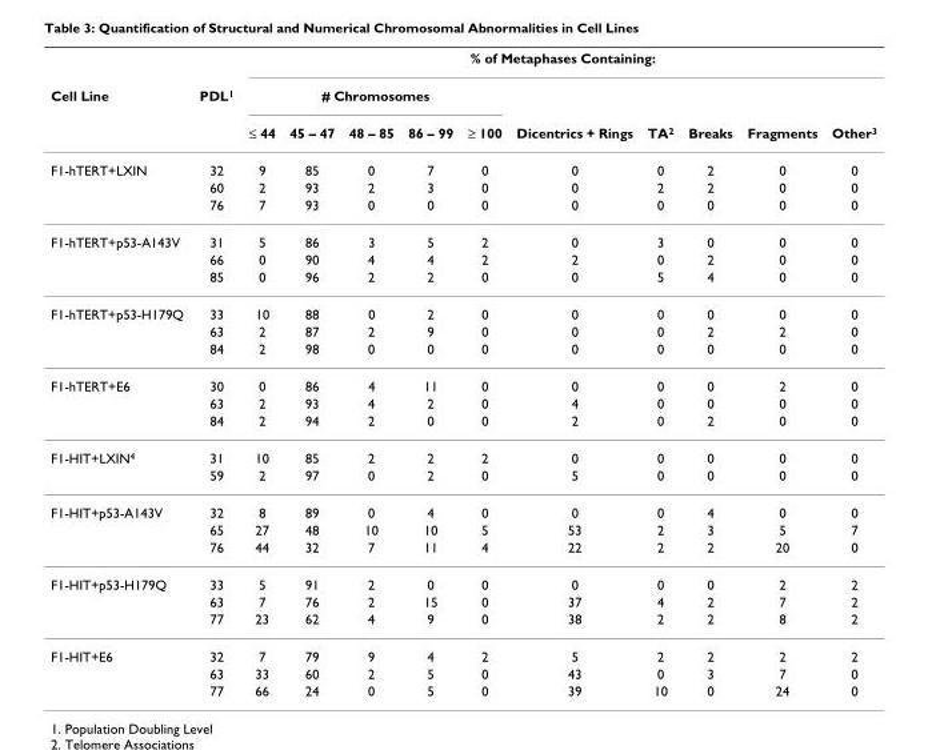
<table><thead><tr><td rowspan="3">Cell Line</td><td rowspan="3">PDL<sup>1</sup></td><td colspan="10">% of Metaphases Containing:</td></tr><tr><td colspan="5"># Chromosomes</td><td rowspan="2">Dicentrics + Rings</td><td rowspan="2">TA<sup>2</sup></td><td rowspan="2">Breaks</td><td rowspan="2">Fragments</td><td rowspan="2">Other<sup>3</sup></td></tr><tr><td>≤ 44</td><td>45 – 47</td><td>48 – 85</td><td>86 – 99</td><td>≥ 100</td></tr></thead><tbody><tr><td rowspan="3">F1-hTERT+LXIN</td><td>32</td><td>9</td><td>85</td><td>0</td><td>7</td><td>0</td><td>0</td><td>0</td><td>2</td><td>0</td><td>0</td></tr><tr><td>60</td><td>2</td><td>93</td><td>2</td><td>3</td><td>0</td><td>0</td><td>2</td><td>2</td><td>0</td><td>0</td></tr><tr><td>76</td><td>7</td><td>93</td><td>0</td><td>0</td><td>0</td><td>0</td><td>0</td><td>0</td><td>0</td><td>0</td></tr><tr><td rowspan="3">F1-hTERT+p53-A143V</td><td>31</td><td>5</td><td>86</td><td>3</td><td>5</td><td>2</td><td>0</td><td>3</td><td>0</td><td>0</td><td>0</td></tr><tr><td>66</td><td>0</td><td>90</td><td>4</td><td>4</td><td>2</td><td>2</td><td>0</td><td>2</td><td>0</td><td>0</td></tr><tr><td>85</td><td>0</td><td>96</td><td>2</td><td>2</td><td>0</td><td>0</td><td>5</td><td>4</td><td>0</td><td>0</td></tr><tr><td rowspan="3">F1-hTERT+p53-H179Q</td><td>33</td><td>10</td><td>88</td><td>0</td><td>2</td><td>0</td><td>0</td><td>0</td><td>0</td><td>0</td><td>0</td></tr><tr><td>63</td><td>2</td><td>87</td><td>2</td><td>9</td><td>0</td><td>0</td><td>0</td><td>2</td><td>2</td><td>0</td></tr><tr><td>84</td><td>2</td><td>98</td><td>0</td><td>0</td><td>0</td><td>0</td><td>0</td><td>0</td><td>0</td><td>0</td></tr><tr><td rowspan="3">F1-hTERT+E6</td><td>30</td><td>0</td><td>86</td><td>4</td><td>11</td><td>0</td><td>0</td><td>0</td><td>0</td><td>2</td><td>0</td></tr><tr><td>63</td><td>2</td><td>93</td><td>4</td><td>2</td><td>0</td><td>4</td><td>0</td><td>0</td><td>0</td><td>0</td></tr><tr><td>84</td><td>2</td><td>94</td><td>2</td><td>0</td><td>0</td><td>2</td><td>0</td><td>2</td><td>0</td><td>0</td></tr><tr><td rowspan="2">F1-HIT+LXIN<sup>4</sup></td><td>31</td><td>10</td><td>85</td><td>2</td><td>2</td><td>2</td><td>0</td><td>0</td><td>0</td><td>0</td><td>0</td></tr><tr><td>59</td><td>2</td><td>97</td><td>0</td><td>2</td><td>0</td><td>5</td><td>0</td><td>0</td><td>0</td><td>0</td></tr><tr><td rowspan="3">F1-HIT+p53-A143V</td><td>32</td><td>8</td><td>89</td><td>0</td><td>4</td><td>0</td><td>0</td><td>0</td><td>4</td><td>0</td><td>0</td></tr><tr><td>65</td><td>27</td><td>48</td><td>10</td><td>10</td><td>5</td><td>53</td><td>2</td><td>3</td><td>5</td><td>7</td></tr><tr><td>76</td><td>44</td><td>32</td><td>7</td><td>11</td><td>4</td><td>22</td><td>2</td><td>2</td><td>20</td><td>0</td></tr><tr><td rowspan="3">F1-HIT+p53-H179Q</td><td>33</td><td>5</td><td>91</td><td>2</td><td>0</td><td>0</td><td>0</td><td>0</td><td>0</td><td>2</td><td>2</td></tr><tr><td>63</td><td>7</td><td>76</td><td>2</td><td>15</td><td>0</td><td>37</td><td>4</td><td>2</td><td>7</td><td>2</td></tr><tr><td>77</td><td>23</td><td>62</td><td>4</td><td>9</td><td>0</td><td>38</td><td>2</td><td>2</td><td>8</td><td>2</td></tr><tr><td rowspan="3">F1-HIT+E6</td><td>32</td><td>7</td><td>79</td><td>9</td><td>4</td><td>2</td><td>5</td><td>2</td><td>2</td><td>2</td><td>2</td></tr><tr><td>63</td><td>33</td><td>60</td><td>2</td><td>5</td><td>0</td><td>43</td><td>0</td><td>3</td><td>7</td><td>0</td></tr><tr><td>77</td><td>66</td><td>24</td><td>0</td><td>5</td><td>0</td><td>39</td><td>10</td><td>0</td><td>24</td><td>0</td></tr></tbody></table>